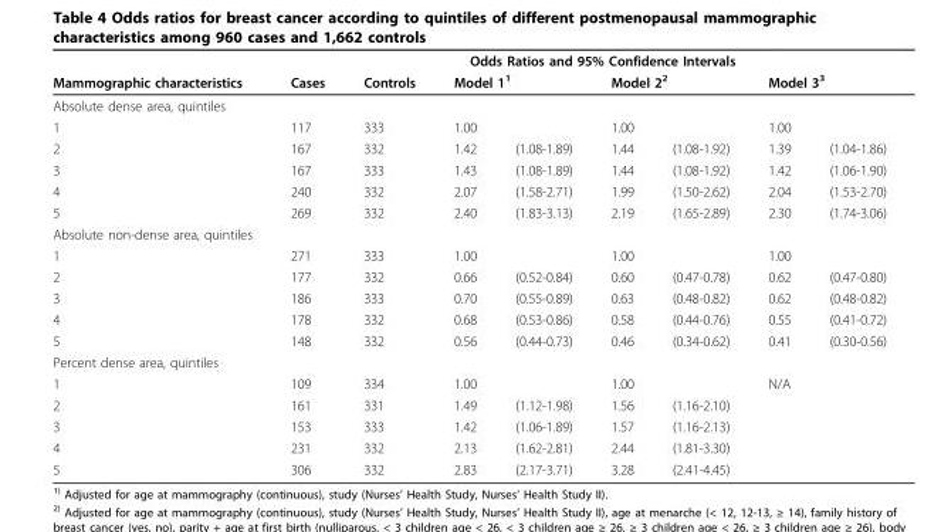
<table><thead><tr><td rowspan="3">Mammographic characteristics Absolute dense area, quintiles</td><td colspan="8">Odds Ratios and 95% Confidence Intervals</td></tr><tr><td rowspan="2">Cases</td><td rowspan="2">Controls</td><td colspan="2">Model 1<sup>1</sup></td><td colspan="2">Model 2<sup>2</sup></td><td colspan="2">Model 3<sup>3</sup></td></tr><tr><td></td><td></td><td></td><td></td><td></td><td></td></tr></thead><tbody><tr><td>1</td><td>117</td><td>333</td><td>1.00</td><td></td><td>1.00</td><td></td><td>1.00</td><td></td></tr><tr><td>2</td><td>167</td><td>332</td><td>1.42</td><td>(1.08-1.89)</td><td>1.44</td><td>(1.08-1.92)</td><td>1.39</td><td>(1.04-1.86)</td></tr><tr><td>3</td><td>167</td><td>333</td><td>1.43</td><td>(1.08-1.89)</td><td>1.44</td><td>(1.08-1.92)</td><td>1.42</td><td>(1.06-1.90)</td></tr><tr><td>4</td><td>240</td><td>332</td><td>2.07</td><td>(1.58-2.71)</td><td>1.99</td><td>(1.50-2.62)</td><td>2.04</td><td>(1.53-2.70)</td></tr><tr><td>5</td><td>269</td><td>332</td><td>2.40</td><td>(1.83-3.13)</td><td>2.19</td><td>(1.65-2.89)</td><td>2.30</td><td>(1.74-3.06)</td></tr><tr><td colspan="9">Absolute non-dense area, quintiles</td></tr><tr><td>1</td><td>271</td><td>333</td><td>1.00</td><td></td><td>1.00</td><td></td><td>1.00</td><td></td></tr><tr><td>2</td><td>177</td><td>332</td><td>0.66</td><td>(0.52-0.84)</td><td>0.60</td><td>(0.47-0.78)</td><td>0.62</td><td>(0.47-0.80)</td></tr><tr><td>3</td><td>186</td><td>333</td><td>0.70</td><td>(0.55-0.89)</td><td>0.63</td><td>(0.48-0.82)</td><td>0.62</td><td>(0.48-0.82)</td></tr><tr><td>4</td><td>178</td><td>332</td><td>0.68</td><td>(0.53-0.86)</td><td>0.58</td><td>(0.44-0.76)</td><td>0.55</td><td>(0.41-0.72)</td></tr><tr><td>5</td><td>148</td><td>332</td><td>0.56</td><td>(0.44-0.73)</td><td>0.46</td><td>(0.34-0.62)</td><td>0.41</td><td>(0.30-0.56)</td></tr><tr><td colspan="9">Percent dense area, quintiles</td></tr><tr><td>1</td><td>109</td><td>334</td><td>1.00</td><td></td><td>1.00</td><td></td><td>N/A</td><td></td></tr><tr><td>2</td><td>161</td><td>331</td><td>1.49</td><td>(1.12-1.98)</td><td>1.56</td><td>(1.16-2.10)</td><td></td><td></td></tr><tr><td>3</td><td>153</td><td>333</td><td>1.42</td><td>(1.06-1.89)</td><td>1.57</td><td>(1.16-2.13)</td><td></td><td></td></tr><tr><td>4</td><td>231</td><td>332</td><td>2.13</td><td>(1.62-2.81)</td><td>2.44</td><td>(1.81-3.30)</td><td></td><td></td></tr><tr><td>5</td><td>306</td><td>332</td><td>2.83</td><td>(2.17-3.71)</td><td>3.28</td><td>(2.41-4.45)</td><td></td><td></td></tr></tbody></table>